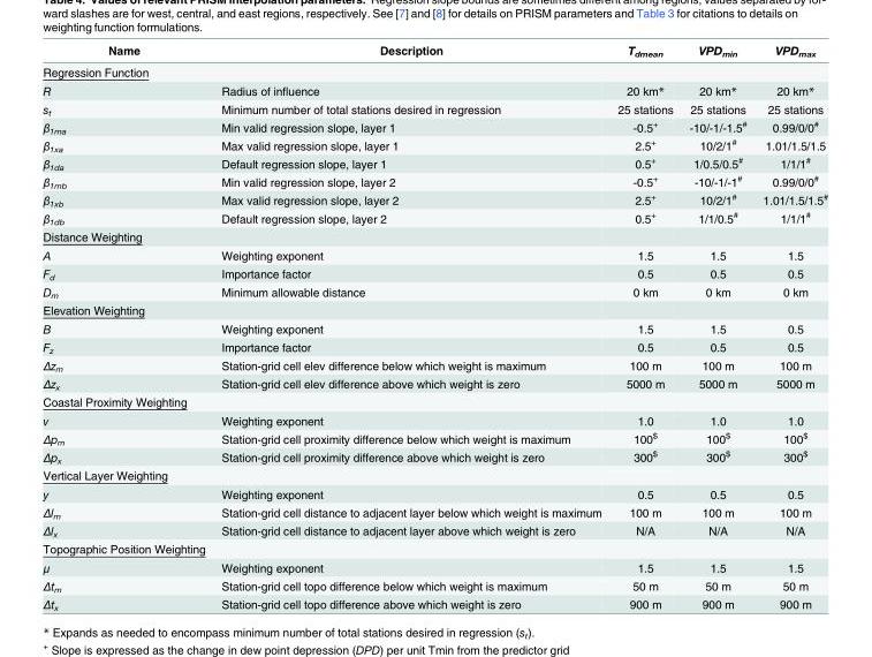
<table><thead><tr><td>Name</td><td>Description</td><td>T<sub>dmean</sub></td><td>VPD<sub>min</sub></td><td>VPD<sub>max</sub></td></tr></thead><tbody><tr><td colspan="5">Regression Function</td></tr><tr><td>R</td><td>Radius of influence</td><td>20 km*</td><td>20 km*</td><td>20 km*</td></tr><tr><td>s<sub>t</sub></td><td>Minimum number of total stations desired in regression</td><td>25 stations</td><td>25 stations</td><td>25 stations</td></tr><tr><td>β<sub>1ma</sub></td><td>Min valid regression slope, layer 1</td><td>-0.5<sup>+</sup></td><td>-10/-1/-1.5<sup>#</sup></td><td>0.99/0/0<sup>#</sup></td></tr><tr><td>β<sub>1xa</sub></td><td>Max valid regression slope, layer 1</td><td>2.5<sup>+</sup></td><td>10/2/1<sup>#</sup></td><td>1.01/1.5/1.5</td></tr><tr><td>β<sub>1da</sub></td><td>Default regression slope, layer 1</td><td>0.5<sup>+</sup></td><td>1/0.5/0.5<sup>#</sup></td><td>1/1/1<sup>#</sup></td></tr><tr><td>β<sub>1mb</sub></td><td>Min valid regression slope, layer 2</td><td>-0.5<sup>+</sup></td><td>-10/-1/-1<sup>#</sup></td><td>0.99/0/0<sup>#</sup></td></tr><tr><td>β<sub>1xb</sub></td><td>Max valid regression slope, layer 2</td><td>2.5<sup>+</sup></td><td>10/2/1<sup>#</sup></td><td>1.01/1.5/1.5<sup>#</sup></td></tr><tr><td>β<sub>1db</sub></td><td>Default regression slope, layer 2</td><td>0.5<sup>+</sup></td><td>1/1/0.5<sup>#</sup></td><td>1/1/1<sup>#</sup></td></tr><tr><td colspan="5">Distance Weighting</td></tr><tr><td>A</td><td>Weighting exponent</td><td>1.5</td><td>1.5</td><td>1.5</td></tr><tr><td>F<sub>d</sub></td><td>Importance factor</td><td>0.5</td><td>0.5</td><td>0.5</td></tr><tr><td>D<sub>m</sub></td><td>Minimum allowable distance</td><td>0 km</td><td>0 km</td><td>0 km</td></tr><tr><td colspan="5">Elevation Weighting</td></tr><tr><td>B</td><td>Weighting exponent</td><td>1.5</td><td>1.5</td><td>0.5</td></tr><tr><td>F<sub>z</sub></td><td>Importance factor</td><td>0.5</td><td>0.5</td><td>0.5</td></tr><tr><td>Δz<sub>m</sub></td><td>Station-grid cell elev difference below which weight is maximum</td><td>100 m</td><td>100 m</td><td>100 m</td></tr><tr><td>Δz<sub>x</sub></td><td>Station-grid cell elev difference above which weight is zero</td><td>5000 m</td><td>5000 m</td><td>5000 m</td></tr><tr><td colspan="5">Coastal Proximity Weighting</td></tr><tr><td>v</td><td>Weighting exponent</td><td>1.0</td><td>1.0</td><td>1.0</td></tr><tr><td>Δp<sub>m</sub></td><td>Station-grid cell proximity difference below which weight is maximum</td><td>100<sup>$</sup></td><td>100<sup>$</sup></td><td>100<sup>$</sup></td></tr><tr><td>Δp<sub>x</sub></td><td>Station-grid cell proximity difference above which weight is zero</td><td>300<sup>$</sup></td><td>300<sup>$</sup></td><td>300<sup>$</sup></td></tr><tr><td colspan="5">Vertical Layer Weighting</td></tr><tr><td>y</td><td>Weighting exponent</td><td>0.5</td><td>0.5</td><td>0.5</td></tr><tr><td>Δl<sub>m</sub></td><td>Station-grid cell distance to adjacent layer below which weight is maximum</td><td>100 m</td><td>100 m</td><td>100 m</td></tr><tr><td>Δl<sub>x</sub></td><td>Station-grid cell distance to adjacent layer above which weight is zero</td><td>N/A</td><td>N/A</td><td>N/A</td></tr><tr><td colspan="5">Topographic Position Weighting</td></tr><tr><td>μ</td><td>Weighting exponent</td><td>1.5</td><td>1.5</td><td>1.5</td></tr><tr><td>Δt<sub>m</sub></td><td>Station-grid cell topo difference below which weight is maximum</td><td>50 m</td><td>50 m</td><td>50 m</td></tr><tr><td>Δt<sub>x</sub></td><td>Station-grid cell topo difference above which weight is zero</td><td>900 m</td><td>900 m</td><td>900 m</td></tr></tbody></table>